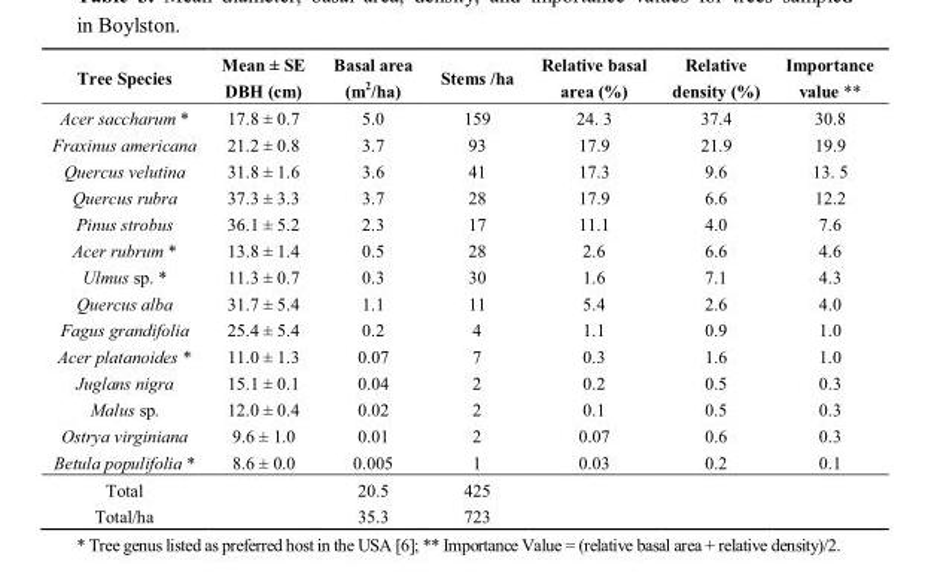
<table><thead><tr><td>Tree Species</td><td>Mean ± SE DBH (cm)</td><td>Basal area (m<sup>2</sup>/ha)</td><td>Stems /ha</td><td>Relative basal area (%)</td><td>Relative density (%)</td><td>Importance value **</td></tr></thead><tbody><tr><td>Acer saccharum *</td><td>17.8 ± 0.7</td><td>5.0</td><td>159</td><td>24. 3</td><td>37.4</td><td>30.8</td></tr><tr><td>Fraxinus americana</td><td>21.2 ± 0.8</td><td>3.7</td><td>93</td><td>17.9</td><td>21.9</td><td>19.9</td></tr><tr><td>Quercus velutina</td><td>31.8 ± 1.6</td><td>3.6</td><td>41</td><td>17.3</td><td>9.6</td><td>13. 5</td></tr><tr><td>Quercus rubra</td><td>37.3 ± 3.3</td><td>3.7</td><td>28</td><td>17.9</td><td>6.6</td><td>12.2</td></tr><tr><td>Pinus strobus</td><td>36.1 ± 5.2</td><td>2.3</td><td>17</td><td>11.1</td><td>4.0</td><td>7.6</td></tr><tr><td>Acer rubrum *</td><td>13.8 ± 1.4</td><td>0.5</td><td>28</td><td>2.6</td><td>6.6</td><td>4.6</td></tr><tr><td>Ulmus sp. *</td><td>11.3 ± 0.7</td><td>0.3</td><td>30</td><td>1.6</td><td>7.1</td><td>4.3</td></tr><tr><td>Quercus alba</td><td>31.7 ± 5.4</td><td>1.1</td><td>11</td><td>5.4</td><td>2.6</td><td>4.0</td></tr><tr><td>Fagus grandifolia</td><td>25.4 ± 5.4</td><td>0.2</td><td>4</td><td>1.1</td><td>0.9</td><td>1.0</td></tr><tr><td>Acer platanoides *</td><td>11.0 ± 1.3</td><td>0.07</td><td>7</td><td>0.3</td><td>1.6</td><td>1.0</td></tr><tr><td>Juglans nigra</td><td>15.1 ± 0.1</td><td>0.04</td><td>2</td><td>0.2</td><td>0.5</td><td>0.3</td></tr><tr><td>Malus sp.</td><td>12.0 ± 0.4</td><td>0.02</td><td>2</td><td>0.1</td><td>0.5</td><td>0.3</td></tr><tr><td>Ostrya virginiana</td><td>9.6 ± 1.0</td><td>0.01</td><td>2</td><td>0.07</td><td>0.6</td><td>0.3</td></tr><tr><td>Betula populifolia *</td><td>8.6 ± 0.0</td><td>0.005</td><td>1</td><td>0.03</td><td>0.2</td><td>0.1</td></tr><tr><td>Total</td><td></td><td>20.5</td><td>425</td><td></td><td></td><td></td></tr><tr><td>Total/ha</td><td></td><td>35.3</td><td>723</td><td></td><td></td><td></td></tr></tbody></table>